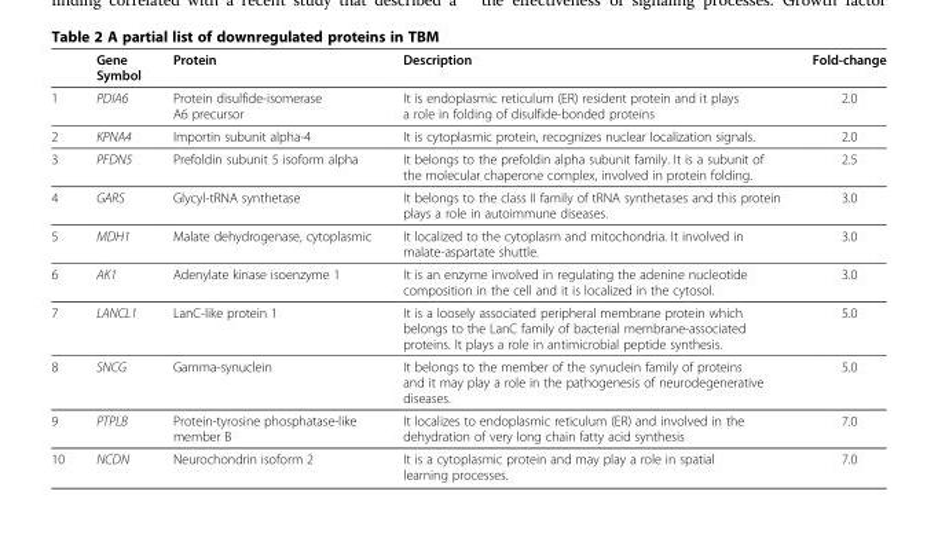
<table><thead><tr><td></td><td>Gene Symbol</td><td>Protein</td><td>Description</td><td>Fold-change</td></tr></thead><tbody><tr><td>1</td><td>PDIA6</td><td>Protein disulfide-isomerase A6 precursor</td><td>It is endoplasmic reticulum (ER) resident protein and it plays a role in folding of disulfide-bonded proteins</td><td>2.0</td></tr><tr><td>2</td><td>KPNA4</td><td>Importin subunit alpha-4</td><td>It is cytoplasmic protein, recognizes nuclear localization signals.</td><td>2.0</td></tr><tr><td>3</td><td>PFDN5</td><td>Prefoldin subunit 5 isoform alpha</td><td>It belongs to the prefoldin alpha subunit family. It is a subunit of the molecular chaperone complex, involved in protein folding.</td><td>2.5</td></tr><tr><td>4</td><td>GARS</td><td>Glycyl-tRNA synthetase</td><td>It belongs to the class II family of tRNA synthetases and this protein plays a role in autoimmune diseases.</td><td>3.0</td></tr><tr><td>5</td><td>MDH1</td><td>Malate dehydrogenase, cytoplasmic</td><td>It localized to the cytoplasm and mitochondria. It involved in malate-aspartate shuttle.</td><td>3.0</td></tr><tr><td>6</td><td>AK1</td><td>Adenylate kinase isoenzyme 1</td><td>It is an enzyme involved in regulating the adenine nucleotide composition in the cell and it is localized in the cytosol.</td><td>3.0</td></tr><tr><td>7</td><td>LANCL1</td><td>LanC-like protein 1</td><td>It is a loosely associated peripheral membrane protein which belongs to the LanC family of bacterial membrane-associated proteins. It plays a role in antimicrobial peptide synthesis.</td><td>5.0</td></tr><tr><td>8</td><td>SNCG</td><td>Gamma-synuclein</td><td>It belongs to the member of the synuclein family of proteins and it may play a role in the pathogenesis of neurodegenerative diseases.</td><td>5.0</td></tr><tr><td>9</td><td>PTPLB</td><td>Protein-tyrosine phosphatase-like member B</td><td>It localizes to endoplasmic reticulum (ER) and involved in the dehydration of very long chain fatty acid synthesis</td><td>7.0</td></tr><tr><td>10</td><td>NCDN</td><td>Neurochondrin isoform 2</td><td>It is a cytoplasmic protein and may play a role in spatial learning processes.</td><td>7.0</td></tr></tbody></table>